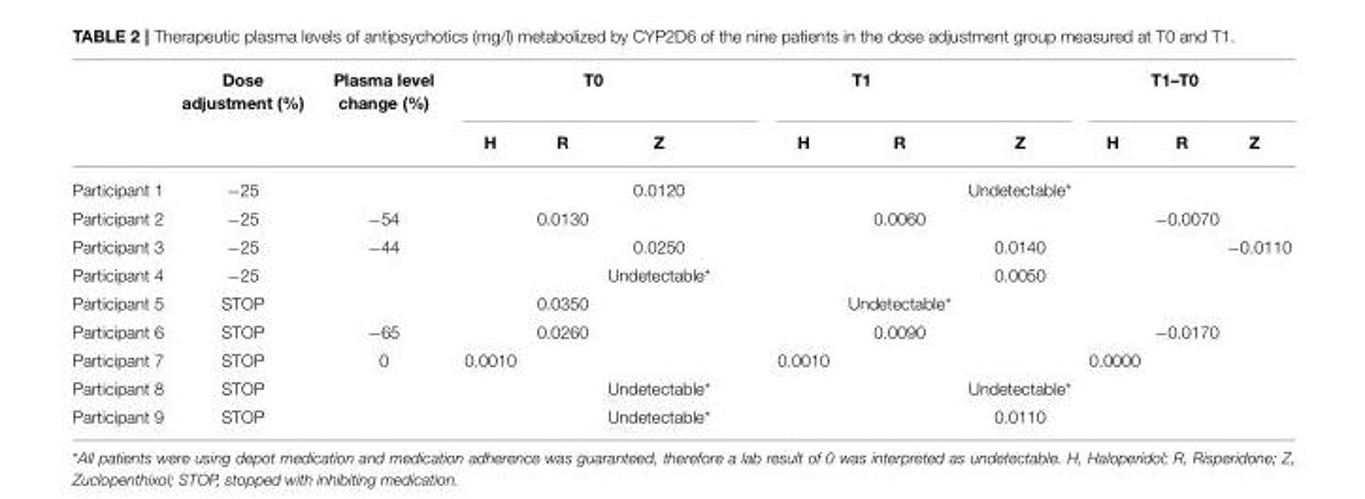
<table><thead><tr><td rowspan="2"></td><td rowspan="2">Dose adjustment (%)</td><td rowspan="2">Plasma level change (%)</td><td colspan="3">T0</td><td colspan="3">T1</td><td colspan="3">T1–T0</td></tr><tr><td>H</td><td>R</td><td>Z</td><td>H</td><td>R</td><td>Z</td><td>H</td><td>R</td><td>Z</td></tr></thead><tbody><tr><td>Participant 1</td><td>−25</td><td></td><td></td><td></td><td>0.0120</td><td></td><td></td><td>Undetectable*</td><td></td><td></td><td></td></tr><tr><td>Participant 2</td><td>−25</td><td>−54</td><td></td><td>0.0130</td><td></td><td></td><td>0.0060</td><td></td><td></td><td>−0.0070</td><td></td></tr><tr><td>Participant 3</td><td>−25</td><td>−44</td><td></td><td></td><td>0.0250</td><td></td><td></td><td>0.0140</td><td></td><td></td><td>−0.0110</td></tr><tr><td>Participant 4</td><td>−25</td><td></td><td></td><td></td><td>Undetectable*</td><td></td><td></td><td>0.0050</td><td></td><td></td><td></td></tr><tr><td>Participant 5</td><td>STOP</td><td></td><td></td><td>0.0350</td><td></td><td></td><td>Undetectable*</td><td></td><td></td><td></td><td></td></tr><tr><td>Participant 6</td><td>STOP</td><td>−65</td><td></td><td>0.0260</td><td></td><td></td><td>0.0090</td><td></td><td></td><td>−0.0170</td><td></td></tr><tr><td>Participant 7</td><td>STOP</td><td>0</td><td>0.0010</td><td></td><td></td><td>0.0010</td><td></td><td></td><td>0.0000</td><td></td><td></td></tr><tr><td>Participant 8</td><td>STOP</td><td></td><td></td><td></td><td>Undetectable*</td><td></td><td></td><td>Undetectable*</td><td></td><td></td><td></td></tr><tr><td>Participant 9</td><td>STOP</td><td></td><td></td><td></td><td>Undetectable*</td><td></td><td></td><td>0.0110</td><td></td><td></td><td></td></tr></tbody></table>